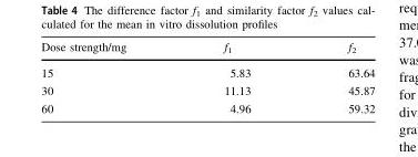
<table><thead><tr><td>Dose strength/mg</td><td>f<sub>1</sub></td><td>f<sub>2</sub></td></tr></thead><tbody><tr><td>15</td><td>5.83</td><td>63.64</td></tr><tr><td>30</td><td>11.13</td><td>45.87</td></tr><tr><td>60</td><td>4.96</td><td>59.32</td></tr></tbody></table>